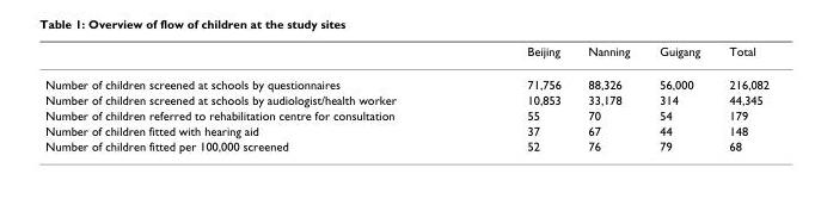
<table><thead><tr><td></td><td>Beijing</td><td>Nanning</td><td>Guigang</td><td>Total</td></tr></thead><tbody><tr><td>Number of children screened at schools by questionnaires</td><td>71,756</td><td>88,326</td><td>56,000</td><td>216,082</td></tr><tr><td>Number of children screened at schools by audiologist/health worker</td><td>10,853</td><td>33,178</td><td>314</td><td>44,345</td></tr><tr><td>Number of children referred to rehabilitation centre for consultation</td><td>55</td><td>70</td><td>54</td><td>179</td></tr><tr><td>Number of children fitted with hearing aid</td><td>37</td><td>67</td><td>44</td><td>148</td></tr><tr><td>Number of children fitted per 100,000 screened</td><td>52</td><td>76</td><td>79</td><td>68</td></tr></tbody></table>